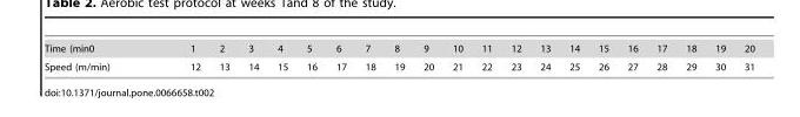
<table><tbody><tr><td>Time (min0</td><td>1</td><td>2</td><td>3</td><td>4</td><td>5</td><td>6</td><td>7</td><td>8</td><td>9</td><td>10</td><td>11</td><td>12</td><td>13</td><td>14</td><td>15</td><td>16</td><td>17</td><td>18</td><td>19</td><td>20</td></tr><tr><td>Speed (m/min)</td><td>12</td><td>13</td><td>14</td><td>15</td><td>16</td><td>17</td><td>18</td><td>19</td><td>20</td><td>21</td><td>22</td><td>23</td><td>24</td><td>25</td><td>26</td><td>27</td><td>28</td><td>29</td><td>30</td><td>31</td></tr></tbody></table>